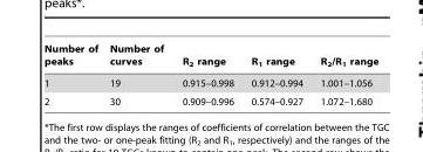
<table><thead><tr><td>Number of peaks</td><td>Number of curves</td><td>R<sub>2</sub> range</td><td>R<sub>1</sub> range</td><td>R<sub>2</sub>/R<sub>1</sub> range</td></tr></thead><tbody><tr><td>1</td><td>19</td><td>0.915–0.998</td><td>0.912–0.994</td><td>1.001–1.056</td></tr><tr><td>2</td><td>30</td><td>0.909–0.996</td><td>0.574–0.927</td><td>1.072–1.680</td></tr></tbody></table>